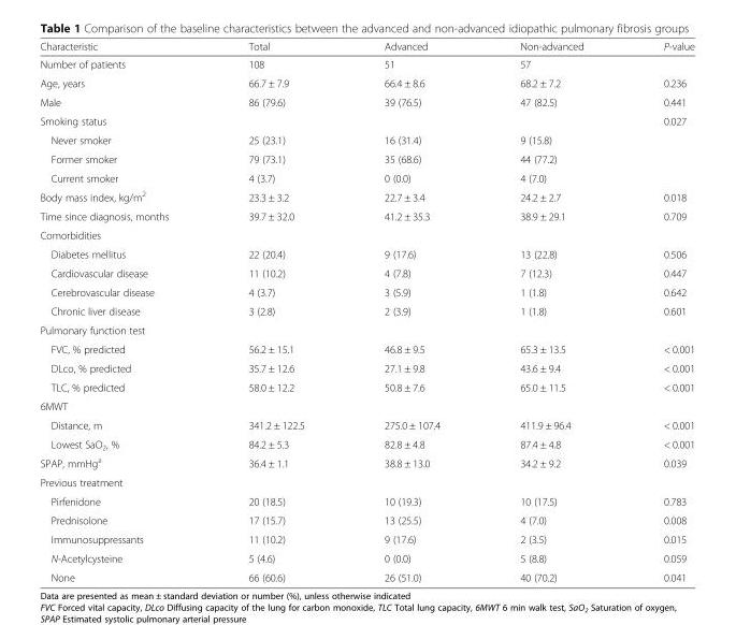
<table><thead><tr><td>Characteristic</td><td>Total</td><td>Advanced</td><td>Non-advanced</td><td>P-value</td></tr></thead><tbody><tr><td>Number of patients</td><td>108</td><td>51</td><td>57</td><td></td></tr><tr><td>Age, years</td><td>66.7 ± 7.9</td><td>66.4 ± 8.6</td><td>68.2 ± 7.2</td><td>0.236</td></tr><tr><td>Male</td><td>86 (79.6)</td><td>39 (76.5)</td><td>47 (82.5)</td><td>0.441</td></tr><tr><td>Smoking status</td><td></td><td></td><td></td><td>0.027</td></tr><tr><td>Never smoker</td><td>25 (23.1)</td><td>16 (31.4)</td><td>9 (15.8)</td><td></td></tr><tr><td>Former smoker</td><td>79 (73.1)</td><td>35 (68.6)</td><td>44 (77.2)</td><td></td></tr><tr><td>Current smoker</td><td>4 (3.7)</td><td>0 (0.0)</td><td>4 (7.0)</td><td></td></tr><tr><td>Body mass index, kg/m<sup>2</sup></td><td>23.3 ± 3.2</td><td>22.7 ± 3.4</td><td>24.2 ± 2.7</td><td>0.018</td></tr><tr><td>Time since diagnosis, months</td><td>39.7 ± 32.0</td><td>41.2 ± 35.3</td><td>38.9 ± 29.1</td><td>0.709</td></tr><tr><td colspan="5">Comorbidities</td></tr><tr><td>Diabetes mellitus</td><td>22 (20.4)</td><td>9 (17.6)</td><td>13 (22.8)</td><td>0.506</td></tr><tr><td>Cardiovascular disease</td><td>11 (10.2)</td><td>4 (7.8)</td><td>7 (12.3)</td><td>0.447</td></tr><tr><td>Cerebrovascular disease</td><td>4 (3.7)</td><td>3 (5.9)</td><td>1 (1.8)</td><td>0.642</td></tr><tr><td>Chronic liver disease</td><td>3 (2.8)</td><td>2 (3.9)</td><td>1 (1.8)</td><td>0.601</td></tr><tr><td colspan="5">Pulmonary function test</td></tr><tr><td>FVC, % predicted</td><td>56.2 ± 15.1</td><td>46.8 ± 9.5</td><td>65.3 ± 13.5</td><td>&lt; 0.001</td></tr><tr><td>DLco, % predicted</td><td>35.7 ± 12.6</td><td>27.1 ± 9.8</td><td>43.6 ± 9.4</td><td>&lt; 0.001</td></tr><tr><td>TLC, % predicted</td><td>58.0 ± 12.2</td><td>50.8 ± 7.6</td><td>65.0 ± 11.5</td><td>&lt; 0.001</td></tr><tr><td colspan="5">6MWT</td></tr><tr><td>Distance, m</td><td>341.2 ± 122.5</td><td>275.0 ± 107.4</td><td>411.9 ± 96.4</td><td>&lt; 0.001</td></tr><tr><td>Lowest SaO<sub>2</sub>, %</td><td>84.2 ± 5.3</td><td>82.8 ± 4.8</td><td>87.4 ± 4.8</td><td>&lt; 0.001</td></tr><tr><td>SPAP, mmHg<sup>a</sup></td><td>36.4 ± 1.1</td><td>38.8 ± 13.0</td><td>34.2 ± 9.2</td><td>0.039</td></tr><tr><td colspan="5">Previous treatment</td></tr><tr><td>Pirfenidone</td><td>20 (18.5)</td><td>10 (19.3)</td><td>10 (17.5)</td><td>0.783</td></tr><tr><td>Prednisolone</td><td>17 (15.7)</td><td>13 (25.5)</td><td>4 (7.0)</td><td>0.008</td></tr><tr><td>Immunosuppressants</td><td>11 (10.2)</td><td>9 (17.6)</td><td>2 (3.5)</td><td>0.015</td></tr><tr><td>N-Acetylcysteine</td><td>5 (4.6)</td><td>0 (0.0)</td><td>5 (8.8)</td><td>0.059</td></tr><tr><td>None</td><td>66 (60.6)</td><td>26 (51.0)</td><td>40 (70.2)</td><td>0.041</td></tr></tbody></table>